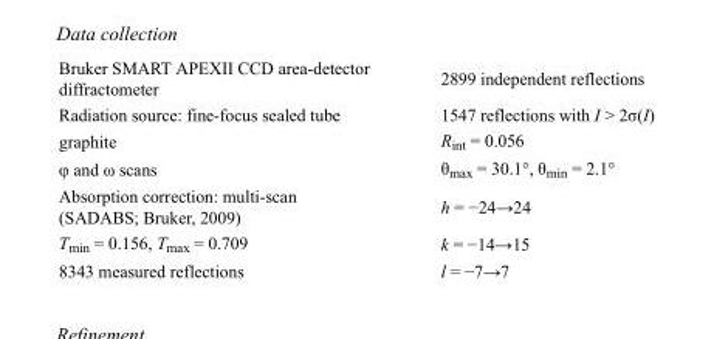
<table><tbody><tr><td>Bruker SMART APEXII CCD area-detector diffractometer</td><td>2899 independent reflections</td></tr><tr><td>Radiation source: fine-focus sealed tube</td><td>1547 reflections with I &gt; 2σ(I)</td></tr><tr><td>graphite</td><td>R<sub>int</sub> = 0.056</td></tr><tr><td>φ and ω scans</td><td>θ<sub>max</sub> = 30.1°, θ<sub>min</sub> = 2.1°</td></tr><tr><td>Absorption correction: multi-scan (SADABS; Bruker, 2009)</td><td>h = −24→24</td></tr><tr><td>T<sub>min</sub> = 0.156, T<sub>max</sub> = 0.709</td><td>k = −14→15</td></tr><tr><td>8343 measured reflections</td><td>l = −7→7</td></tr></tbody></table>